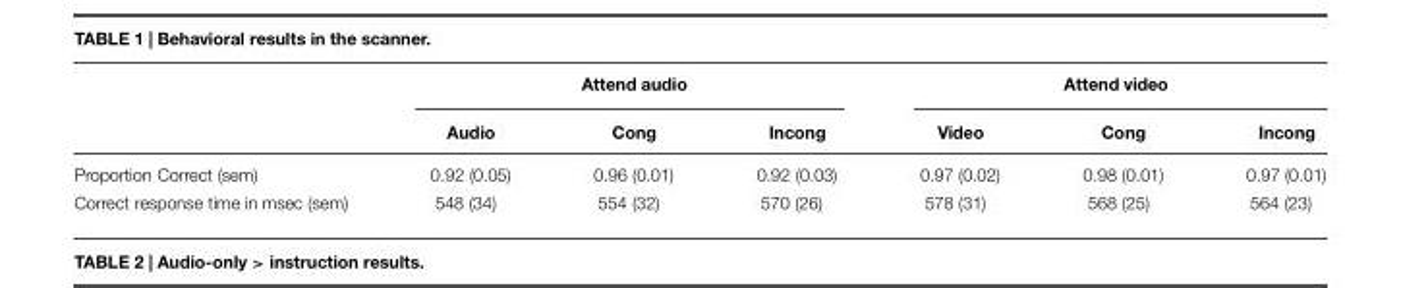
<table><thead><tr><td rowspan="2"></td><td colspan="3">Attend audio</td><td colspan="3">Attend video</td></tr><tr><td>Audio</td><td>Cong</td><td>Incong</td><td>Video</td><td>Cong</td><td>Incong</td></tr></thead><tbody><tr><td>Proportion Correct (sem)</td><td>0.92 (0.05)</td><td>0.96 (0.01)</td><td>0.92 (0.03)</td><td>0.97 (0.02)</td><td>0.98 (0.01)</td><td>0.97 (0.01)</td></tr><tr><td>Correct response time in msec (sem)</td><td>548 (34)</td><td>554 (32)</td><td>570 (26)</td><td>578 (31)</td><td>568 (25)</td><td>564 (23)</td></tr></tbody></table>